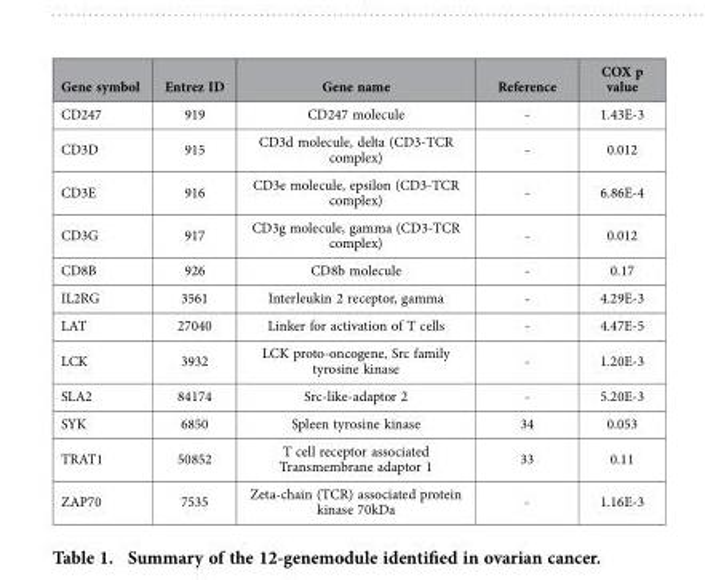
<table><thead><tr><td>Gene symbol</td><td>Entrez ID</td><td>Gene name</td><td>Reference</td><td>COX p value</td></tr></thead><tbody><tr><td>CD247</td><td>919</td><td>CD247 molecule</td><td>-</td><td>1.43E-3</td></tr><tr><td>CD3D</td><td>915</td><td>CD3d molecule, delta (CD3-TCR complex)</td><td>-</td><td>0.012</td></tr><tr><td>CD3E</td><td>916</td><td>CD3e molecule, epsilon (CD3-TCR complex)</td><td>-</td><td>6.86E-4</td></tr><tr><td>CD3G</td><td>917</td><td>CD3g molecule, gamma (CD3-TCR complex)</td><td>-</td><td>0.012</td></tr><tr><td>CD8B</td><td>926</td><td>CD8b molecule</td><td>-</td><td>0.17</td></tr><tr><td>IL2RG</td><td>3561</td><td>Interleukin 2 receptor, gamma</td><td>-</td><td>4.29E-3</td></tr><tr><td>LAT</td><td>27040</td><td>Linker for activation of T cells</td><td>-</td><td>4.47E-5</td></tr><tr><td>LCK</td><td>3932</td><td>LCK proto-oncogene, Src family tyrosine kinase</td><td>-</td><td>1.20E-3</td></tr><tr><td>SLA2</td><td>84174</td><td>Src-like-adaptor 2</td><td>-</td><td>5.20E-3</td></tr><tr><td>SYK</td><td>6850</td><td>Spleen tyrosine kinase</td><td>34</td><td>0.053</td></tr><tr><td>TRAT1</td><td>50852</td><td>T cell receptor associated Transmembrane adaptor 1</td><td>33</td><td>0.11</td></tr><tr><td>ZAP70</td><td>7535</td><td>Zeta-chain (TCR) associated protein kinase 70kDa</td><td>-</td><td>1.16E-3</td></tr></tbody></table>